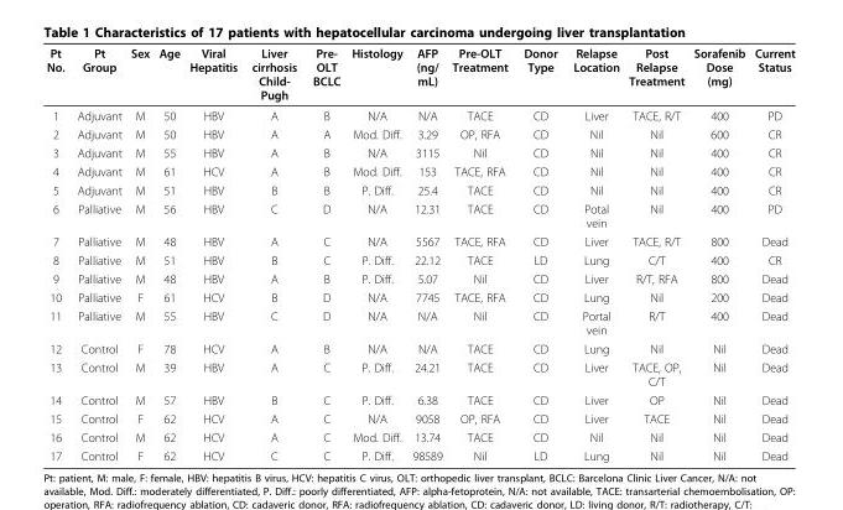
<table><thead><tr><td>Pt No.</td><td>Pt Group</td><td>Sex</td><td>Age</td><td>Viral Hepatitis</td><td>Liver cirrhosis Child- Pugh</td><td>Pre- OLT BCLC</td><td>Histology</td><td>AFP (ng/ mL)</td><td>Pre-OLT Treatment</td><td>Donor Type</td><td>Relapse Location</td><td>Post Relapse Treatment</td><td>Sorafenib Dose (mg)</td><td>Current Status</td></tr></thead><tbody><tr><td>1</td><td>Adjuvant</td><td>M</td><td>50</td><td>HBV</td><td>A</td><td>B</td><td>N/A</td><td>N/A</td><td>TACE</td><td>CD</td><td>Liver</td><td>TACE, R/T</td><td>400</td><td>PD</td></tr><tr><td>2</td><td>Adjuvant</td><td>M</td><td>50</td><td>HBV</td><td>A</td><td>A</td><td>Mod. Diff.</td><td>3.29</td><td>OP, RFA</td><td>CD</td><td>Nil</td><td>Nil</td><td>600</td><td>CR</td></tr><tr><td>3</td><td>Adjuvant</td><td>M</td><td>55</td><td>HBV</td><td>A</td><td>B</td><td>N/A</td><td>3115</td><td>Nil</td><td>CD</td><td>Nil</td><td>Nil</td><td>400</td><td>CR</td></tr><tr><td>4</td><td>Adjuvant</td><td>M</td><td>61</td><td>HCV</td><td>A</td><td>B</td><td>Mod. Diff.</td><td>153</td><td>TACE, RFA</td><td>CD</td><td>Nil</td><td>Nil</td><td>400</td><td>CR</td></tr><tr><td>5</td><td>Adjuvant</td><td>M</td><td>51</td><td>HBV</td><td>B</td><td>B</td><td>P. Diff.</td><td>25.4</td><td>TACE</td><td>CD</td><td>Nil</td><td>Nil</td><td>400</td><td>CR</td></tr><tr><td>6</td><td>Palliative</td><td>M</td><td>56</td><td>HBV</td><td>C</td><td>D</td><td>N/A</td><td>12.31</td><td>TACE</td><td>CD</td><td>Potal vein</td><td>Nil</td><td>400</td><td>PD</td></tr><tr><td>7</td><td>Palliative</td><td>M</td><td>48</td><td>HBV</td><td>A</td><td>C</td><td>N/A</td><td>5567</td><td>TACE, RFA</td><td>CD</td><td>Liver</td><td>TACE, R/T</td><td>800</td><td>Dead</td></tr><tr><td>8</td><td>Palliative</td><td>M</td><td>51</td><td>HBV</td><td>B</td><td>C</td><td>P. Diff.</td><td>22.12</td><td>TACE</td><td>LD</td><td>Lung</td><td>C/T</td><td>400</td><td>CR</td></tr><tr><td>9</td><td>Palliative</td><td>M</td><td>48</td><td>HBV</td><td>A</td><td>B</td><td>P. Diff.</td><td>5.07</td><td>Nil</td><td>CD</td><td>Liver</td><td>R/T, RFA</td><td>800</td><td>Dead</td></tr><tr><td>10</td><td>Palliative</td><td>F</td><td>61</td><td>HCV</td><td>B</td><td>D</td><td>N/A</td><td>7745</td><td>TACE, RFA</td><td>CD</td><td>Lung</td><td>Nil</td><td>200</td><td>Dead</td></tr><tr><td>11</td><td>Palliative</td><td>M</td><td>55</td><td>HBV</td><td>C</td><td>D</td><td>N/A</td><td>N/A</td><td>Nil</td><td>CD</td><td>Portal vein</td><td>R/T</td><td>400</td><td>Dead</td></tr><tr><td>12</td><td>Control</td><td>F</td><td>78</td><td>HCV</td><td>A</td><td>B</td><td>N/A</td><td>N/A</td><td>TACE</td><td>CD</td><td>Lung</td><td>Nil</td><td>Nil</td><td>Dead</td></tr><tr><td>13</td><td>Control</td><td>M</td><td>39</td><td>HBV</td><td>A</td><td>C</td><td>P. Diff.</td><td>24.21</td><td>TACE</td><td>CD</td><td>Liver</td><td>TACE, OP, C/T</td><td>Nil</td><td>Dead</td></tr><tr><td>14</td><td>Control</td><td>M</td><td>57</td><td>HBV</td><td>B</td><td>C</td><td>P. Diff.</td><td>6.38</td><td>TACE</td><td>CD</td><td>Liver</td><td>OP</td><td>Nil</td><td>Dead</td></tr><tr><td>15</td><td>Control</td><td>F</td><td>62</td><td>HCV</td><td>A</td><td>C</td><td>N/A</td><td>9058</td><td>OP, RFA</td><td>CD</td><td>Liver</td><td>TACE</td><td>Nil</td><td>Dead</td></tr><tr><td>16</td><td>Control</td><td>M</td><td>62</td><td>HCV</td><td>A</td><td>C</td><td>Mod. Diff.</td><td>13.74</td><td>TACE</td><td>CD</td><td>Nil</td><td>Nil</td><td>Nil</td><td>Dead</td></tr><tr><td>17</td><td>Control</td><td>F</td><td>62</td><td>HCV</td><td>C</td><td>C</td><td>P. Diff.</td><td>98589</td><td>Nil</td><td>LD</td><td>Lung</td><td>Nil</td><td>Nil</td><td>Dead</td></tr></tbody></table>